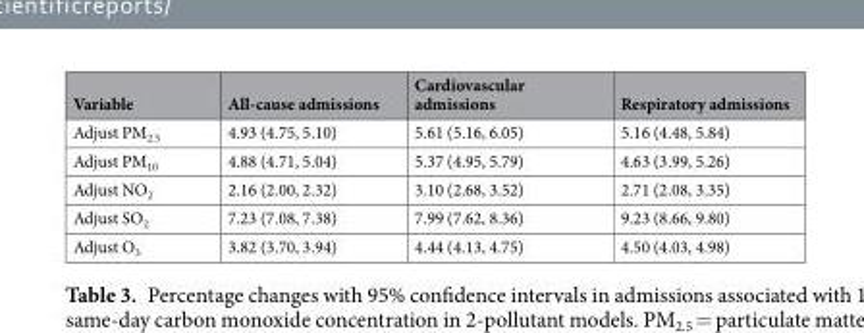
<table><thead><tr><td>Variable</td><td>All-cause admissions</td><td>Cardiovascular admissions</td><td>Respiratory admissions</td></tr></thead><tbody><tr><td>Adjust PM<sub>2.5</sub></td><td>4.93 (4.75, 5.10)</td><td>5.61 (5.16, 6.05)</td><td>5.16 (4.48, 5.84)</td></tr><tr><td>Adjust PM<sub>10</sub></td><td>4.88 (4.71, 5.04)</td><td>5.37 (4.95, 5.79)</td><td>4.63 (3.99, 5.26)</td></tr><tr><td>Adjust NO<sub>2</sub></td><td>2.16 (2.00, 2.32)</td><td>3.10 (2.68, 3.52)</td><td>2.71 (2.08, 3.35)</td></tr><tr><td>Adjust SO<sub>2</sub></td><td>7.23 (7.08, 7.38)</td><td>7.99 (7.62, 8.36)</td><td>9.23 (8.66, 9.80)</td></tr><tr><td>Adjust O<sub>3</sub></td><td>3.82 (3.70, 3.94)</td><td>4.44 (4.13, 4.75)</td><td>4.50 (4.03, 4.98)</td></tr></tbody></table>